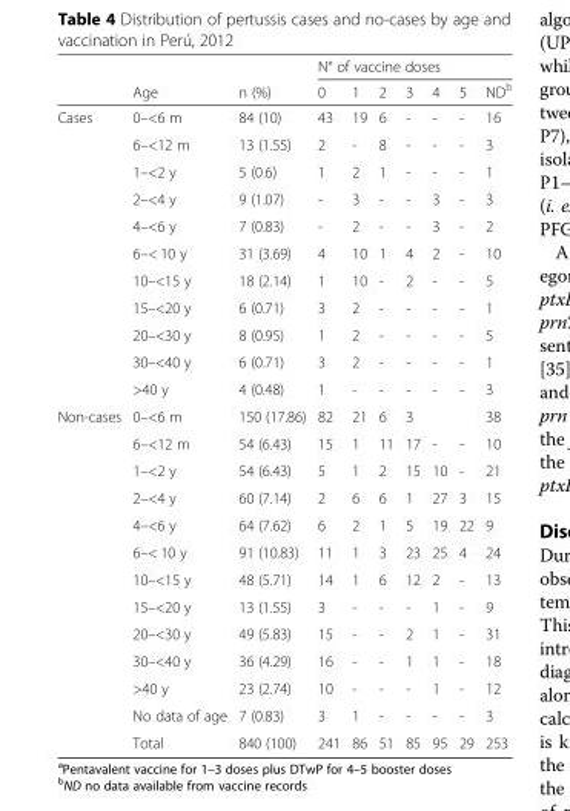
<table><thead><tr><td rowspan="2"></td><td rowspan="2">Age</td><td rowspan="2">n (%)</td><td colspan="7">N° of vaccine doses</td></tr><tr><td>0</td><td>1</td><td>2</td><td>3</td><td>4</td><td>5</td><td>ND<sup>b</sup></td></tr></thead><tbody><tr><td rowspan="11">Cases</td><td>0–&lt;6 m</td><td>84 (10)</td><td>43</td><td>19</td><td>6</td><td>-</td><td>-</td><td>-</td><td>16</td></tr><tr><td>6–&lt;12 m</td><td>13 (1.55)</td><td>2</td><td>-</td><td>8</td><td>-</td><td>-</td><td>-</td><td>3</td></tr><tr><td>1–&lt;2 y</td><td>5 (0.6)</td><td>1</td><td>2</td><td>1</td><td>-</td><td>-</td><td>-</td><td>1</td></tr><tr><td>2–&lt;4 y</td><td>9 (1.07)</td><td>-</td><td>3</td><td>-</td><td>-</td><td>3</td><td>-</td><td>3</td></tr><tr><td>4–&lt;6 y</td><td>7 (0.83)</td><td>-</td><td>2</td><td>-</td><td>-</td><td>3</td><td>-</td><td>2</td></tr><tr><td>6–&lt; 10 y</td><td>31 (3.69)</td><td>4</td><td>10</td><td>1</td><td>4</td><td>2</td><td>-</td><td>10</td></tr><tr><td>10–&lt;15 y</td><td>18 (2.14)</td><td>1</td><td>10</td><td>-</td><td>2</td><td>-</td><td>-</td><td>5</td></tr><tr><td>15–&lt;20 y</td><td>6 (0.71)</td><td>3</td><td>2</td><td>-</td><td>-</td><td>-</td><td>-</td><td>1</td></tr><tr><td>20–&lt;30 y</td><td>8 (0.95)</td><td>1</td><td>2</td><td>-</td><td>-</td><td>-</td><td>-</td><td>5</td></tr><tr><td>30–&lt;40 y</td><td>6 (0.71)</td><td>3</td><td>2</td><td>-</td><td>-</td><td>-</td><td>-</td><td>1</td></tr><tr><td>&gt;40 y</td><td>4 (0.48)</td><td>1</td><td>-</td><td>-</td><td>-</td><td>-</td><td>-</td><td>3</td></tr><tr><td rowspan="13">Non-cases</td><td>0–&lt;6 m</td><td>150 (17.86)</td><td>82</td><td>21</td><td>6</td><td>3</td><td></td><td></td><td>38</td></tr><tr><td>6–&lt;12 m</td><td>54 (6.43)</td><td>15</td><td>1</td><td>11</td><td>17</td><td>-</td><td>-</td><td>10</td></tr><tr><td>1–&lt;2 y</td><td>54 (6.43)</td><td>5</td><td>1</td><td>2</td><td>15</td><td>10</td><td>-</td><td>21</td></tr><tr><td>2–&lt;4 y</td><td>60 (7.14)</td><td>2</td><td>6</td><td>6</td><td>1</td><td>27</td><td>3</td><td>15</td></tr><tr><td>4–&lt;6 y</td><td>64 (7.62)</td><td>6</td><td>2</td><td>1</td><td>5</td><td>19</td><td>22</td><td>9</td></tr><tr><td>6–&lt; 10 y</td><td>91 (10.83)</td><td>11</td><td>1</td><td>3</td><td>23</td><td>25</td><td>4</td><td>24</td></tr><tr><td>10–&lt;15 y</td><td>48 (5.71)</td><td>14</td><td>1</td><td>6</td><td>12</td><td>2</td><td>-</td><td>13</td></tr><tr><td>15–&lt;20 y</td><td>13 (1.55)</td><td>3</td><td>-</td><td>-</td><td>-</td><td>1</td><td>-</td><td>9</td></tr><tr><td>20–&lt;30 y</td><td>49 (5.83)</td><td>15</td><td>-</td><td>-</td><td>2</td><td>1</td><td>-</td><td>31</td></tr><tr><td>30–&lt;40 y</td><td>36 (4.29)</td><td>16</td><td>-</td><td>-</td><td>1</td><td>1</td><td>-</td><td>18</td></tr><tr><td>&gt;40 y</td><td>23 (2.74)</td><td>10</td><td>-</td><td>-</td><td>-</td><td>1</td><td>-</td><td>12</td></tr><tr><td>No data of age</td><td>7 (0.83)</td><td>3</td><td>1</td><td>-</td><td>-</td><td>-</td><td>-</td><td>3</td></tr><tr><td>Total</td><td>840 (100)</td><td>241</td><td>86</td><td>51</td><td>85</td><td>95</td><td>29</td><td>253</td></tr></tbody></table>